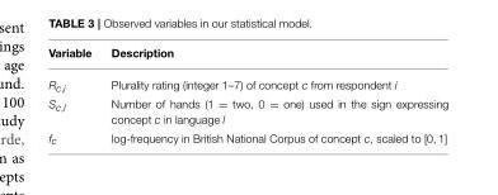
<table><thead><tr><td>Variable</td><td>Description</td></tr></thead><tbody><tr><td>R<sub>c,i</sub></td><td>Plurality rating (integer 1–7) of concept c from respondent i</td></tr><tr><td>S<sub>c,l</sub></td><td>Number of hands (1 = two, 0 = one) used in the sign expressing concept c in language l</td></tr><tr><td>f<sub>c</sub></td><td>log-frequency in British National Corpus of concept c, scaled to [0, 1]</td></tr></tbody></table>